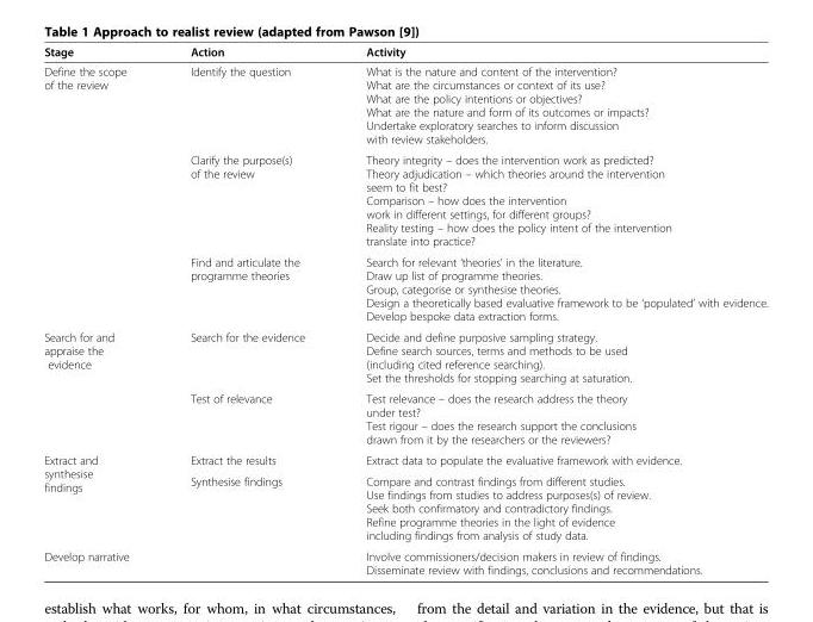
<table><thead><tr><td>Stage</td><td>Action</td><td>Activity</td></tr></thead><tbody><tr><td rowspan="3">Define the scope of the review</td><td>Identify the question</td><td>What is the nature and content of the intervention? What are the circumstances or context of its use? What are the policy intentions or objectives? What are the nature and form of its outcomes or impacts? Undertake exploratory searches to inform discussion with review stakeholders.</td></tr><tr><td>Clarify the purpose(s) of the review</td><td>Theory integrity – does the intervention work as predicted? Theory adjudication – which theories around the intervention seem to fit best? Comparison – how does the intervention work in different settings, for different groups? Reality testing – how does the policy intent of the intervention translate into practice?</td></tr><tr><td>Find and articulate the programme theories</td><td>Search for relevant ‘theories’ in the literature. Draw up list of programme theories. Group, categorise or synthesise theories. Design a theoretically based evaluative framework to be ‘populated’ with evidence. Develop bespoke data extraction forms.</td></tr><tr><td rowspan="2">Search for and appraise the evidence</td><td>Search for the evidence</td><td>Decide and define purposive sampling strategy. Define search sources, terms and methods to be used (including cited reference searching). Set the thresholds for stopping searching at saturation.</td></tr><tr><td>Test of relevance</td><td>Test relevance – does the research address the theory under test? Test rigour – does the research support the conclusions drawn from it by the researchers or the reviewers?</td></tr><tr><td rowspan="2">Extract and synthesise findings</td><td>Extract the results</td><td>Extract data to populate the evaluative framework with evidence.</td></tr><tr><td>Synthesise findings</td><td>Compare and contrast findings from different studies. Use findings from studies to address purposes(s) of review. Seek both confirmatory and contradictory findings. Refine programme theories in the light of evidence including findings from analysis of study data.</td></tr><tr><td>Develop narrative</td><td></td><td>Involve commissioners/decision makers in review of findings. Disseminate review with findings, conclusions and recommendations.</td></tr></tbody></table>